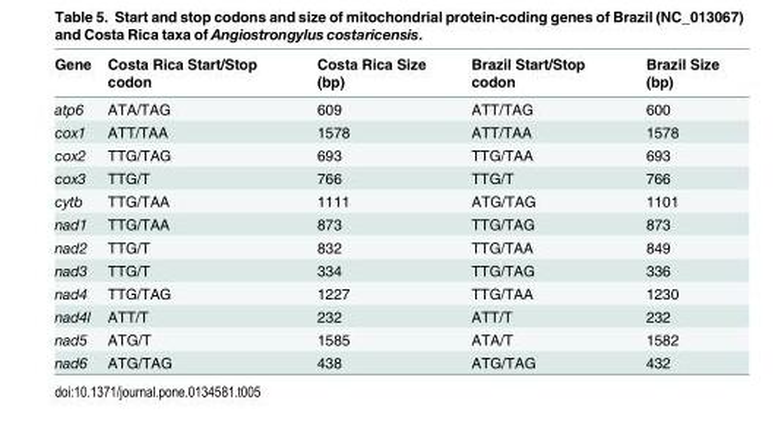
<table><thead><tr><td>Gene</td><td>Costa Rica Start/Stop codon</td><td>Costa Rica Size (bp)</td><td>Brazil Start/Stop codon</td><td>Brazil Size (bp)</td></tr></thead><tbody><tr><td>atp6</td><td>ATA/TAG</td><td>609</td><td>ATT/TAG</td><td>600</td></tr><tr><td>cox1</td><td>ATT/TAA</td><td>1578</td><td>ATT/TAA</td><td>1578</td></tr><tr><td>cox2</td><td>TTG/TAG</td><td>693</td><td>TTG/TAA</td><td>693</td></tr><tr><td>cox3</td><td>TTG/T</td><td>766</td><td>TTG/T</td><td>766</td></tr><tr><td>cytb</td><td>TTG/TAA</td><td>1111</td><td>ATG/TAG</td><td>1101</td></tr><tr><td>nad1</td><td>TTG/TAA</td><td>873</td><td>TTG/TAG</td><td>873</td></tr><tr><td>nad2</td><td>TTG/T</td><td>832</td><td>TTG/TAA</td><td>849</td></tr><tr><td>nad3</td><td>TTG/T</td><td>334</td><td>TTG/TAG</td><td>336</td></tr><tr><td>nad4</td><td>TTG/TAG</td><td>1227</td><td>TTG/TAA</td><td>1230</td></tr><tr><td>nad4l</td><td>ATT/T</td><td>232</td><td>ATT/T</td><td>232</td></tr><tr><td>nad5</td><td>ATG/T</td><td>1585</td><td>ATA/T</td><td>1582</td></tr><tr><td>nad6</td><td>ATG/TAG</td><td>438</td><td>ATG/TAG</td><td>432</td></tr></tbody></table>